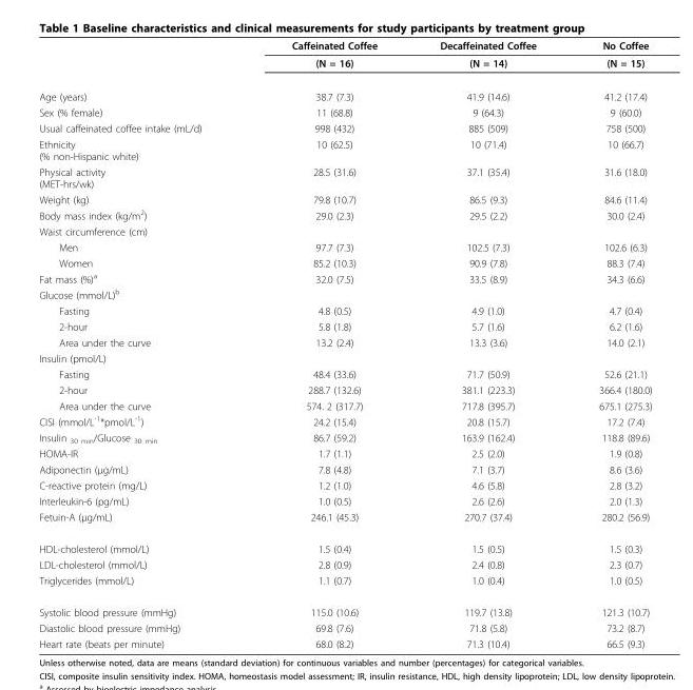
<table><thead><tr><td></td><td>Caffeinated Coffee</td><td>Decaffeinated Coffee</td><td>No Coffee</td></tr></thead><tbody><tr><td></td><td>(N = 16)</td><td>(N = 14)</td><td>(N = 15)</td></tr><tr><td>Age (years)</td><td>38.7 (7.3)</td><td>41.9 (14.6)</td><td>41.2 (17.4)</td></tr><tr><td>Sex (% female)</td><td>11 (68.8)</td><td>9 (64.3)</td><td>9 (60.0)</td></tr><tr><td>Usual caffeinated coffee intake (mL/d)</td><td>998 (432)</td><td>885 (509)</td><td>758 (500)</td></tr><tr><td>Ethnicity (% non-Hispanic white)</td><td>10 (62.5)</td><td>10 (71.4)</td><td>10 (66.7)</td></tr><tr><td>Physical activity (MET-hrs/wk)</td><td>28.5 (31.6)</td><td>37.1 (35.4)</td><td>31.6 (18.0)</td></tr><tr><td>Weight (kg)</td><td>79.8 (10.7)</td><td>86.5 (9.3)</td><td>84.6 (11.4)</td></tr><tr><td>Body mass index (kg/m<sup>2</sup>)</td><td>29.0 (2.3)</td><td>29.5 (2.2)</td><td>30.0 (2.4)</td></tr><tr><td colspan="4">Waist circumference (cm)</td></tr><tr><td>Men</td><td>97.7 (7.3)</td><td>102.5 (7.3)</td><td>102.6 (6.3)</td></tr><tr><td>Women</td><td>85.2 (10.3)</td><td>90.9 (7.8)</td><td>88.3 (7.4)</td></tr><tr><td>Fat mass (%)<sup>a</sup></td><td>32.0 (7.5)</td><td>33.5 (8.9)</td><td>34.3 (6.6)</td></tr><tr><td colspan="4">Glucose (mmol/L)<sup>b</sup></td></tr><tr><td>Fasting</td><td>4.8 (0.5)</td><td>4.9 (1.0)</td><td>4.7 (0.4)</td></tr><tr><td>2-hour</td><td>5.8 (1.8)</td><td>5.7 (1.6)</td><td>6.2 (1.6)</td></tr><tr><td>Area under the curve</td><td>13.2 (2.4)</td><td>13.3 (3.6)</td><td>14.0 (2.1)</td></tr><tr><td colspan="4">Insulin (pmol/L)</td></tr><tr><td>Fasting</td><td>48.4 (33.6)</td><td>71.7 (50.9)</td><td>52.6 (21.1)</td></tr><tr><td>2-hour</td><td>288.7 (132.6)</td><td>381.1 (223.3)</td><td>366.4 (180.0)</td></tr><tr><td>Area under the curve</td><td>574. 2 (317.7)</td><td>717.8 (395.7)</td><td>675.1 (275.3)</td></tr><tr><td>CISI (mmol/L<sup>-1</sup>*pmol/L<sup>-1</sup>)</td><td>24.2 (15.4)</td><td>20.8 (15.7)</td><td>17.2 (7.4)</td></tr><tr><td>Insulin <sub>30 min</sub>/Glucose <sub>30 min</sub></td><td>86.7 (59.2)</td><td>163.9 (162.4)</td><td>118.8 (89.6)</td></tr><tr><td>HOMA-IR</td><td>1.7 (1.1)</td><td>2.5 (2.0)</td><td>1.9 (0.8)</td></tr><tr><td>Adiponectin (μg/mL)</td><td>7.8 (4.8)</td><td>7.1 (3.7)</td><td>8.6 (3.6)</td></tr><tr><td>C-reactive protein (mg/L)</td><td>1.2 (1.0)</td><td>4.6 (5.8)</td><td>2.8 (3.2)</td></tr><tr><td>Interleukin-6 (pg/mL)</td><td>1.0 (0.5)</td><td>2.6 (2.6)</td><td>2.0 (1.3)</td></tr><tr><td>Fetuin-A (μg/mL)</td><td>246.1 (45.3)</td><td>270.7 (37.4)</td><td>280.2 (56.9)</td></tr><tr><td>HDL-cholesterol (mmol/L)</td><td>1.5 (0.4)</td><td>1.5 (0.5)</td><td>1.5 (0.3)</td></tr><tr><td>LDL-cholesterol (mmol/L)</td><td>2.8 (0.9)</td><td>2.4 (0.8)</td><td>2.3 (0.7)</td></tr><tr><td>Triglycerides (mmol/L)</td><td>1.1 (0.7)</td><td>1.0 (0.4)</td><td>1.0 (0.5)</td></tr><tr><td>Systolic blood pressure (mmHg)</td><td>115.0 (10.6)</td><td>119.7 (13.8)</td><td>121.3 (10.7)</td></tr><tr><td>Diastolic blood pressure (mmHg)</td><td>69.8 (7.6)</td><td>71.8 (5.8)</td><td>73.2 (8.7)</td></tr><tr><td>Heart rate (beats per minute)</td><td>68.0 (8.2)</td><td>71.3 (10.4)</td><td>66.5 (9.3)</td></tr></tbody></table>